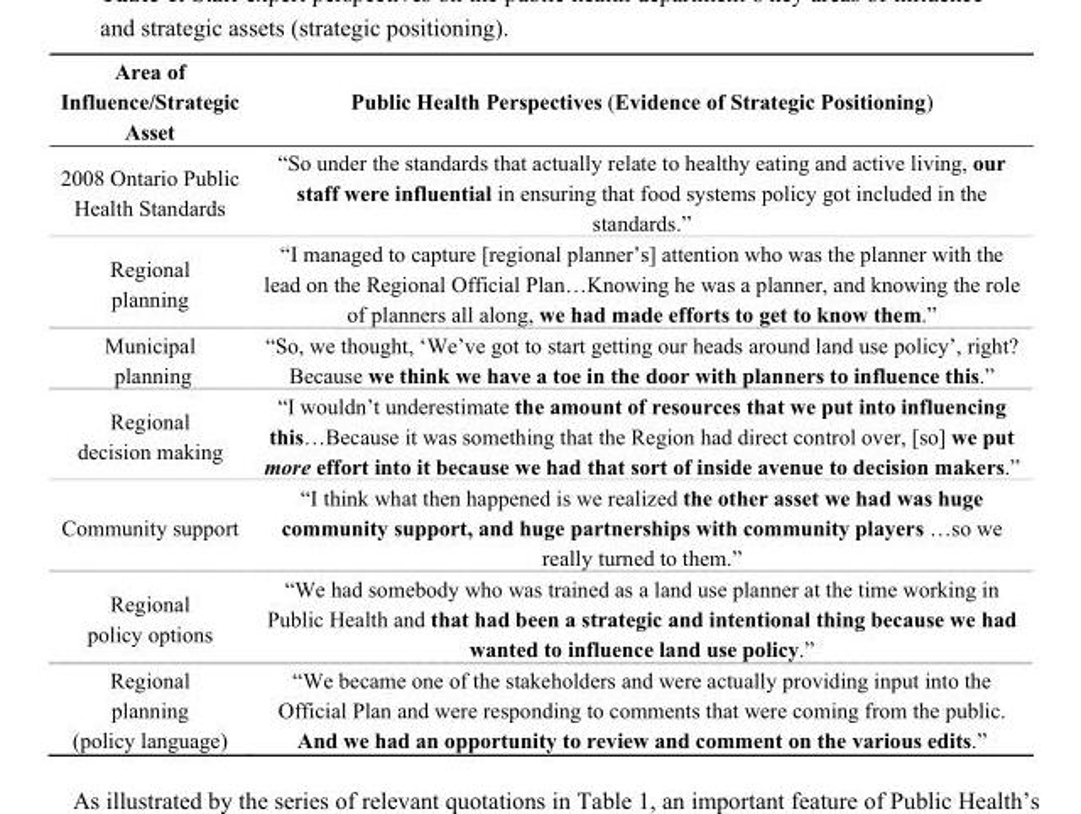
<table><thead><tr><td>Area of Influence/Strategic Asset</td><td>Public Health Perspectives (Evidence of Strategic Positioning)</td></tr></thead><tbody><tr><td>2008 Ontario Public Health Standards</td><td>“So under the standards that actually relate to healthy eating and active living, our staff were influential in ensuring that food systems policy got included in the standards.”</td></tr><tr><td>Regional planning</td><td>“I managed to capture [regional planner’s] attention who was the planner with the lead on the Regional Official Plan…Knowing he was a planner, and knowing the role of planners all along, we had made efforts to get to know them.”</td></tr><tr><td>Municipal planning</td><td>“So, we thought, ‘We’ve got to start getting our heads around land use policy’, right? Because we think we have a toe in the door with planners to influence this.”</td></tr><tr><td>Regional decision making</td><td>“I wouldn’t underestimate the amount of resources that we put into influencing this…Because it was something that the Region had direct control over, [so] we put more effort into it because we had that sort of inside avenue to decision makers.”</td></tr><tr><td>Community support</td><td>“I think what then happened is we realized the other asset we had was huge community support, and huge partnerships with community players …so we really turned to them.”</td></tr><tr><td>Regional policy options</td><td>“We had somebody who was trained as a land use planner at the time working in Public Health and that had been a strategic and intentional thing because we had wanted to influence land use policy.”</td></tr><tr><td>Regional planning (policy language)</td><td>“We became one of the stakeholders and were actually providing input into the Official Plan and were responding to comments that were coming from the public. And we had an opportunity to review and comment on the various edits.”</td></tr></tbody></table>